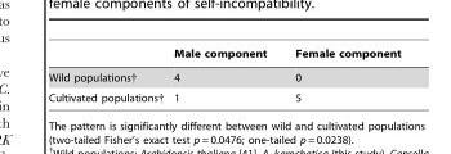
<table><thead><tr><td></td><td>Male component</td><td>Female component</td></tr></thead><tbody><tr><td>Wild populations†</td><td>4</td><td>0</td></tr><tr><td>Cultivated populations†</td><td>1</td><td>5</td></tr></tbody></table>